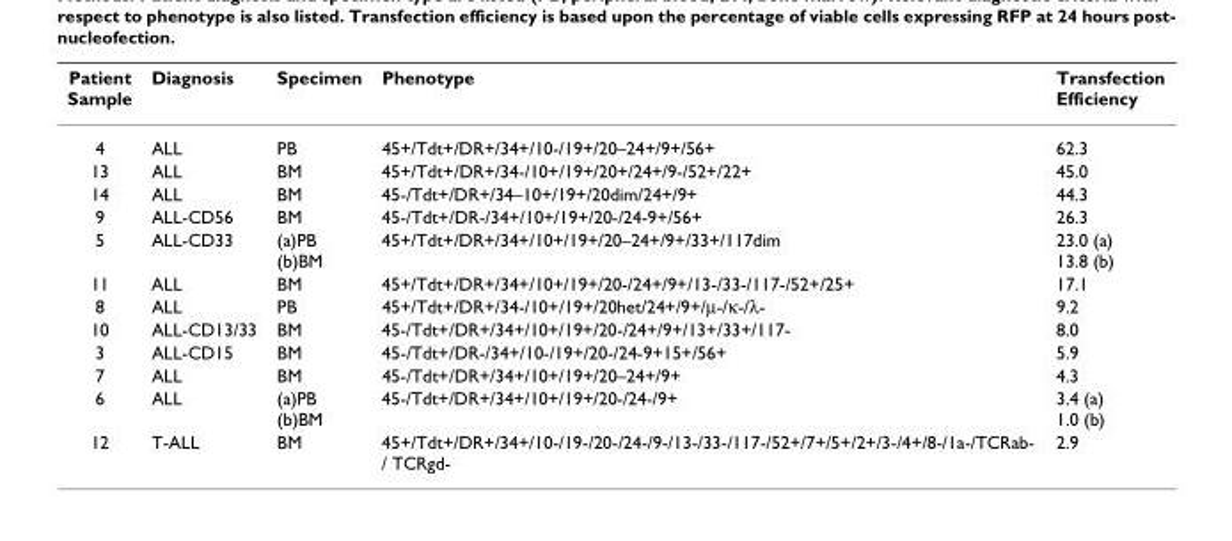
<table><thead><tr><td>Patient Sample</td><td>Diagnosis</td><td>Specimen</td><td>Phenotype</td><td>Transfection Efficiency</td></tr></thead><tbody><tr><td>4</td><td>ALL</td><td>PB</td><td>45+/Tdt+/DR+/34+/10-/19+/20–24+/9+/56+</td><td>62.3</td></tr><tr><td>13</td><td>ALL</td><td>BM</td><td>45+/Tdt+/DR+/34-/10+/19+/20+/24+/9-/52+/22+</td><td>45.0</td></tr><tr><td>14</td><td>ALL</td><td>BM</td><td>45-/Tdt+/DR+/34–10+/19+/20dim/24+/9+</td><td>44.3</td></tr><tr><td>9</td><td>ALL-CD56</td><td>BM</td><td>45-/Tdt+/DR-/34+/10+/19+/20-/24-9+/56+</td><td>26.3</td></tr><tr><td>5</td><td>ALL-CD33</td><td>(a)PB (b)BM</td><td>45+/Tdt+/DR+/34+/10+/19+/20–24+/9+/33+/117dim</td><td>23.0 (a) 13.8 (b)</td></tr><tr><td>11</td><td>ALL</td><td>BM</td><td>45+/Tdt+/DR+/34+/10+/19+/20-/24+/9+/13-/33-/117-/52+/25+</td><td>17.1</td></tr><tr><td>8</td><td>ALL</td><td>PB</td><td>45+/Tdt+/DR+/34-/10+/19+/20het/24+/9+/µ-/κ-/λ-</td><td>9.2</td></tr><tr><td>10</td><td>ALL-CD13/33</td><td>BM</td><td>45-/Tdt+/DR+/34+/10+/19+/20-/24+/9+/13+/33+/117-</td><td>8.0</td></tr><tr><td>3</td><td>ALL-CD15</td><td>BM</td><td>45-/Tdt+/DR-/34+/10-/19+/20-/24-9+15+/56+</td><td>5.9</td></tr><tr><td>7</td><td>ALL</td><td>BM</td><td>45-/Tdt+/DR+/34+/10+/19+/20–24+/9+</td><td>4.3</td></tr><tr><td>6</td><td>ALL</td><td>(a)PB (b)BM</td><td>45-/Tdt+/DR+/34+/10+/19+/20-/24-/9+</td><td>3.4 (a) 1.0 (b)</td></tr><tr><td>12</td><td>T-ALL</td><td>BM</td><td>45+/Tdt+/DR+/34+/10-/19-/20-/24-/9-/13-/33-/117-/52+/7+/5+/2+/3-/4+/8-/1a-/TCRab- / TCRgd-</td><td>2.9</td></tr></tbody></table>